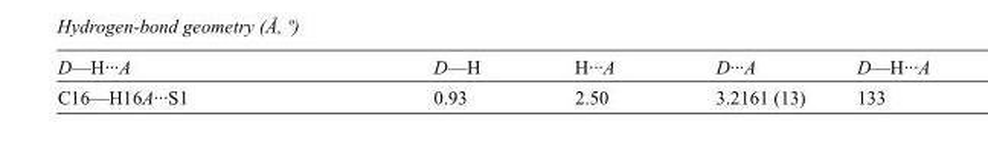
<table><tbody><tr><td>D—H···A</td><td>D—H</td><td>H···A</td><td>D···A</td><td>D—H···A</td></tr><tr><td>C16—H16A···S1</td><td>0.93</td><td>2.50</td><td>3.2161 (13)</td><td>133</td></tr></tbody></table>